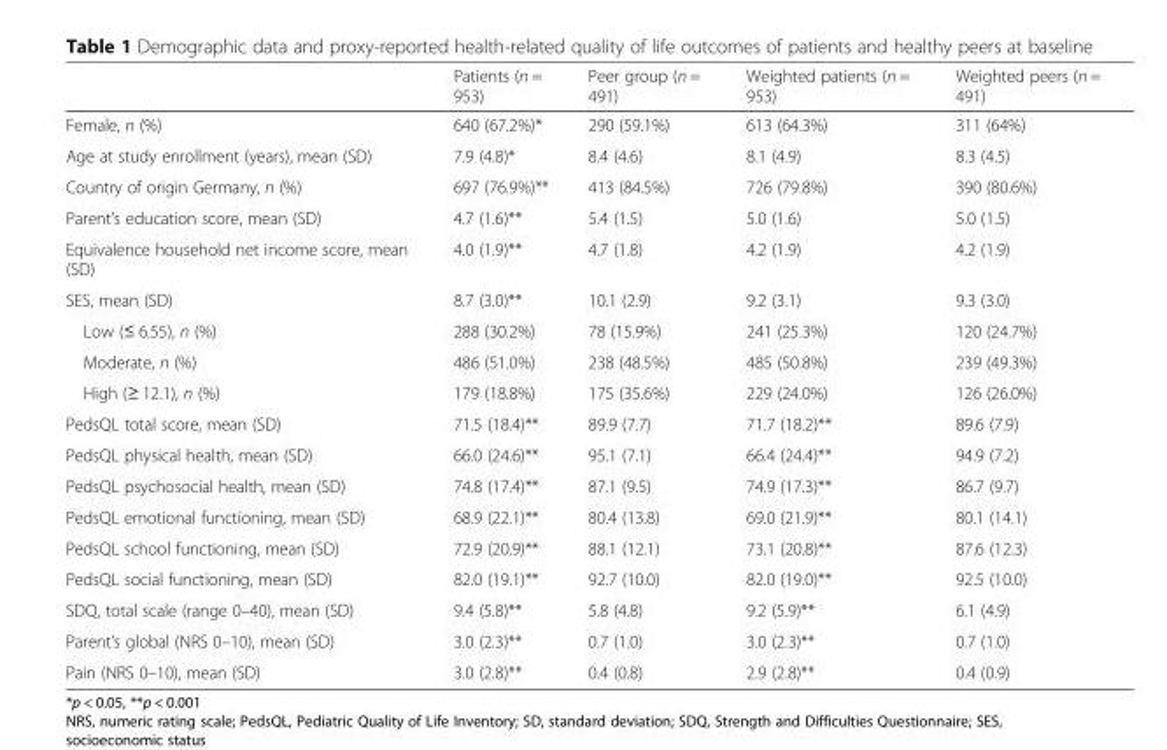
<table><thead><tr><td></td><td>Patients (n = 953)</td><td>Peer group (n = 491)</td><td>Weighted patients (n = 953)</td><td>Weighted peers (n = 491)</td></tr></thead><tbody><tr><td>Female, n (%)</td><td>640 (67.2%)*</td><td>290 (59.1%)</td><td>613 (64.3%)</td><td>311 (64%)</td></tr><tr><td>Age at study enrollment (years), mean (SD)</td><td>7.9 (4.8)*</td><td>8.4 (4.6)</td><td>8.1 (4.9)</td><td>8.3 (4.5)</td></tr><tr><td>Country of origin Germany, n (%)</td><td>697 (76.9%)**</td><td>413 (84.5%)</td><td>726 (79.8%)</td><td>390 (80.6%)</td></tr><tr><td>Parent’s education score, mean (SD)</td><td>4.7 (1.6)**</td><td>5.4 (1.5)</td><td>5.0 (1.6)</td><td>5.0 (1.5)</td></tr><tr><td>Equivalence household net income score, mean (SD)</td><td>4.0 (1.9)**</td><td>4.7 (1.8)</td><td>4.2 (1.9)</td><td>4.2 (1.9)</td></tr><tr><td>SES, mean (SD)</td><td>8.7 (3.0)**</td><td>10.1 (2.9)</td><td>9.2 (3.1)</td><td>9.3 (3.0)</td></tr><tr><td>Low (≤ 6.55), n (%)</td><td>288 (30.2%)</td><td>78 (15.9%)</td><td>241 (25.3%)</td><td>120 (24.7%)</td></tr><tr><td>Moderate, n (%)</td><td>486 (51.0%)</td><td>238 (48.5%)</td><td>485 (50.8%)</td><td>239 (49.3%)</td></tr><tr><td>High (≥ 12.1), n (%)</td><td>179 (18.8%)</td><td>175 (35.6%)</td><td>229 (24.0%)</td><td>126 (26.0%)</td></tr><tr><td>PedsQL total score, mean (SD)</td><td>71.5 (18.4)**</td><td>89.9 (7.7)</td><td>71.7 (18.2)**</td><td>89.6 (7.9)</td></tr><tr><td>PedsQL physical health, mean (SD)</td><td>66.0 (24.6)**</td><td>95.1 (7.1)</td><td>66.4 (24.4)**</td><td>94.9 (7.2)</td></tr><tr><td>PedsQL psychosocial health, mean (SD)</td><td>74.8 (17.4)**</td><td>87.1 (9.5)</td><td>74.9 (17.3)**</td><td>86.7 (9.7)</td></tr><tr><td>PedsQL emotional functioning, mean (SD)</td><td>68.9 (22.1)**</td><td>80.4 (13.8)</td><td>69.0 (21.9)**</td><td>80.1 (14.1)</td></tr><tr><td>PedsQL school functioning, mean (SD)</td><td>72.9 (20.9)**</td><td>88.1 (12.1)</td><td>73.1 (20.8)**</td><td>87.6 (12.3)</td></tr><tr><td>PedsQL social functioning, mean (SD)</td><td>82.0 (19.1)**</td><td>92.7 (10.0)</td><td>82.0 (19.0)**</td><td>92.5 (10.0)</td></tr><tr><td>SDQ, total scale (range 0–40), mean (SD)</td><td>9.4 (5.8)**</td><td>5.8 (4.8)</td><td>9.2 (5.9)**</td><td>6.1 (4.9)</td></tr><tr><td>Parent’s global (NRS 0–10), mean (SD)</td><td>3.0 (2.3)**</td><td>0.7 (1.0)</td><td>3.0 (2.3)**</td><td>0.7 (1.0)</td></tr><tr><td>Pain (NRS 0–10), mean (SD)</td><td>3.0 (2.8)**</td><td>0.4 (0.8)</td><td>2.9 (2.8)**</td><td>0.4 (0.9)</td></tr></tbody></table>